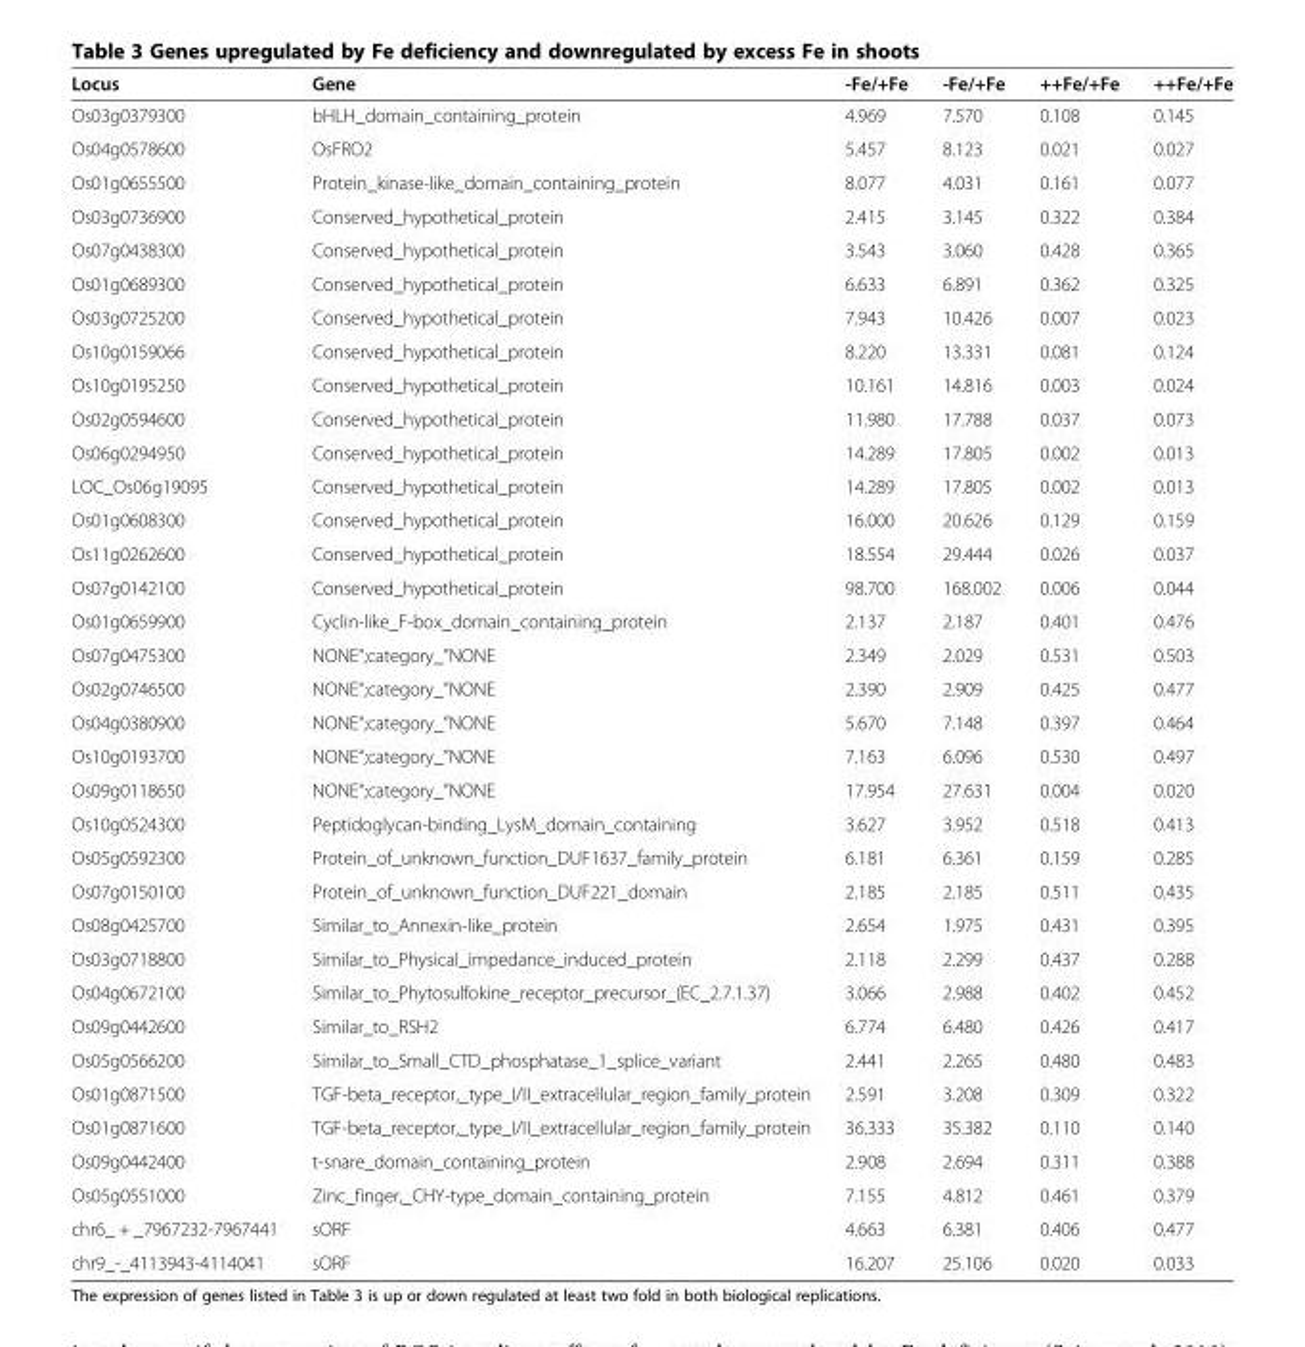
<table><thead><tr><td>Locus</td><td>Gene</td><td>-Fe/+Fe</td><td>-Fe/+Fe</td><td>++Fe/+Fe</td><td>++Fe/+Fe</td></tr></thead><tbody><tr><td>Os03g0379300</td><td>bHLH_domain_containing_protein</td><td>4.969</td><td>7.570</td><td>0.108</td><td>0.145</td></tr><tr><td>Os04g0578600</td><td>OsFRO2</td><td>5.457</td><td>8.123</td><td>0.021</td><td>0.027</td></tr><tr><td>Os01g0655500</td><td>Protein_kinase-like_domain_containing_protein</td><td>8.077</td><td>4.031</td><td>0.161</td><td>0.077</td></tr><tr><td>Os03g0736900</td><td>Conserved_hypothetical_protein</td><td>2.415</td><td>3.145</td><td>0.322</td><td>0.384</td></tr><tr><td>Os07g0438300</td><td>Conserved_hypothetical_protein</td><td>3.543</td><td>3.060</td><td>0.428</td><td>0.365</td></tr><tr><td>Os01g0689300</td><td>Conserved_hypothetical_protein</td><td>6.633</td><td>6.891</td><td>0.362</td><td>0.325</td></tr><tr><td>Os03g0725200</td><td>Conserved_hypothetical_protein</td><td>7.943</td><td>10.426</td><td>0.007</td><td>0.023</td></tr><tr><td>Os10g0159066</td><td>Conserved_hypothetical_protein</td><td>8.220</td><td>13.331</td><td>0.081</td><td>0.124</td></tr><tr><td>Os10g0195250</td><td>Conserved_hypothetical_protein</td><td>10.161</td><td>14.816</td><td>0.003</td><td>0.024</td></tr><tr><td>Os02g0594600</td><td>Conserved_hypothetical_protein</td><td>11.980</td><td>17.788</td><td>0.037</td><td>0.073</td></tr><tr><td>Os06g0294950</td><td>Conserved_hypothetical_protein</td><td>14.289</td><td>17.805</td><td>0.002</td><td>0.013</td></tr><tr><td>LOC_Os06g19095</td><td>Conserved_hypothetical_protein</td><td>14.289</td><td>17.805</td><td>0.002</td><td>0.013</td></tr><tr><td>Os01g0608300</td><td>Conserved_hypothetical_protein</td><td>16.000</td><td>20.626</td><td>0.129</td><td>0.159</td></tr><tr><td>Os11g0262600</td><td>Conserved_hypothetical_protein</td><td>18.554</td><td>29.444</td><td>0.026</td><td>0.037</td></tr><tr><td>Os07g0142100</td><td>Conserved_hypothetical_protein</td><td>98.700</td><td>168.002</td><td>0.006</td><td>0.044</td></tr><tr><td>Os01g0659900</td><td>Cyclin-like_F-box_domain_containing_protein</td><td>2.137</td><td>2.187</td><td>0.401</td><td>0.476</td></tr><tr><td>Os07g0475300</td><td>NONE“;category_”NONE</td><td>2.349</td><td>2.029</td><td>0.531</td><td>0.503</td></tr><tr><td>Os02g0746500</td><td>NONE“;category_”NONE</td><td>2.390</td><td>2.909</td><td>0.425</td><td>0.477</td></tr><tr><td>Os04g0380900</td><td>NONE“;category_”NONE</td><td>5.670</td><td>7.148</td><td>0.397</td><td>0.464</td></tr><tr><td>Os10g0193700</td><td>NONE“;category_”NONE</td><td>7.163</td><td>6.096</td><td>0.530</td><td>0.497</td></tr><tr><td>Os09g0118650</td><td>NONE“;category_”NONE</td><td>17.954</td><td>27.631</td><td>0.004</td><td>0.020</td></tr><tr><td>Os10g0524300</td><td>Peptidoglycan-binding_LysM_domain_containing</td><td>3.627</td><td>3.952</td><td>0.518</td><td>0.413</td></tr><tr><td>Os05g0592300</td><td>Protein_of_unknown_function_DUF1637_family_protein</td><td>6.181</td><td>6.361</td><td>0.159</td><td>0.285</td></tr><tr><td>Os07g0150100</td><td>Protein_of_unknown_function_DUF221_domain</td><td>2.185</td><td>2.185</td><td>0.511</td><td>0.435</td></tr><tr><td>Os08g0425700</td><td>Similar_to_Annexin-like_protein</td><td>2.654</td><td>1.975</td><td>0.431</td><td>0.395</td></tr><tr><td>Os03g0718800</td><td>Similar_to_Physical_impedance_induced_protein</td><td>2.118</td><td>2.299</td><td>0.437</td><td>0.288</td></tr><tr><td>Os04g0672100</td><td>Similar_to_Phytosulfokine_receptor_precursor_(EC_2.7.1.37)</td><td>3.066</td><td>2.988</td><td>0.402</td><td>0.452</td></tr><tr><td>Os09g0442600</td><td>Similar_to_RSH2</td><td>6.774</td><td>6.480</td><td>0.426</td><td>0.417</td></tr><tr><td>Os05g0566200</td><td>Similar_to_Small_CTD_phosphatase_1_splice_variant</td><td>2.441</td><td>2.265</td><td>0.480</td><td>0.483</td></tr><tr><td>Os01g0871500</td><td>TGF-beta_receptor,_type_I/II_extracellular_region_family_protein</td><td>2.591</td><td>3.208</td><td>0.309</td><td>0.322</td></tr><tr><td>Os01g0871600</td><td>TGF-beta_receptor,_type_I/II_extracellular_region_family_protein</td><td>36.333</td><td>35.382</td><td>0.110</td><td>0.140</td></tr><tr><td>Os09g0442400</td><td>t-snare_domain_containing_protein</td><td>2.908</td><td>2.694</td><td>0.311</td><td>0.388</td></tr><tr><td>Os05g0551000</td><td>Zinc_finger,_CHY-type_domain_containing_protein</td><td>7.155</td><td>4.812</td><td>0.461</td><td>0.379</td></tr><tr><td>chr6_ + _7967232-7967441</td><td>sORF</td><td>4.663</td><td>6.381</td><td>0.406</td><td>0.477</td></tr><tr><td>chr9_-_4113943-4114041</td><td>sORF</td><td>16.207</td><td>25.106</td><td>0.020</td><td>0.033</td></tr></tbody></table>